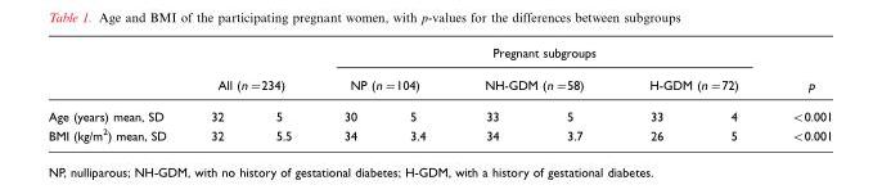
<table><thead><tr><td rowspan="3">Age (years) mean, SD</td><td></td><td></td><td colspan="6">Pregnant subgroups</td><td rowspan="3">p &lt;0.001</td></tr><tr><td colspan="2">All (n=234)</td><td colspan="2">NP (n=104)</td><td colspan="2">NH-GDM (n=58)</td><td colspan="2">H-GDM (n=72)</td></tr><tr><td>32</td><td>5</td><td>30</td><td>5</td><td>33</td><td>5</td><td>33</td><td>4</td></tr></thead><tbody><tr><td>BMI (kg/m<sup>2</sup>) mean, SD</td><td>32</td><td>5.5</td><td>34</td><td>3.4</td><td>34</td><td>3.7</td><td>26</td><td>5</td><td>&lt;0.001</td></tr></tbody></table>